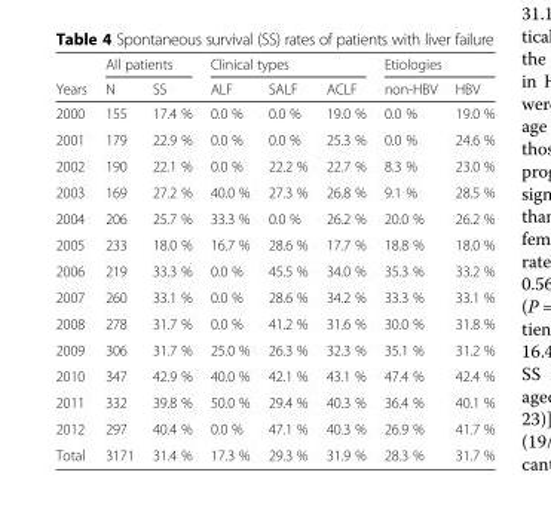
<table><thead><tr><td rowspan="2">Years</td><td colspan="2">All patients</td><td colspan="3">Clinical types</td><td colspan="2">Etiologies</td></tr><tr><td>N</td><td>SS</td><td>ALF</td><td>SALF</td><td>ACLF</td><td>non-HBV</td><td>HBV</td></tr></thead><tbody><tr><td>2000</td><td>155</td><td>17.4 %</td><td>0.0 %</td><td>0.0 %</td><td>19.0 %</td><td>0.0 %</td><td>19.0 %</td></tr><tr><td>2001</td><td>179</td><td>22.9 %</td><td>0.0 %</td><td>0.0 %</td><td>25.3 %</td><td>0.0 %</td><td>24.6 %</td></tr><tr><td>2002</td><td>190</td><td>22.1 %</td><td>0.0 %</td><td>22.2 %</td><td>22.7 %</td><td>8.3 %</td><td>23.0 %</td></tr><tr><td>2003</td><td>169</td><td>27.2 %</td><td>40.0 %</td><td>27.3 %</td><td>26.8 %</td><td>9.1 %</td><td>28.5 %</td></tr><tr><td>2004</td><td>206</td><td>25.7 %</td><td>33.3 %</td><td>0.0 %</td><td>26.2 %</td><td>20.0 %</td><td>26.2 %</td></tr><tr><td>2005</td><td>233</td><td>18.0 %</td><td>16.7 %</td><td>28.6 %</td><td>17.7 %</td><td>18.8 %</td><td>18.0 %</td></tr><tr><td>2006</td><td>219</td><td>33.3 %</td><td>0.0 %</td><td>45.5 %</td><td>34.0 %</td><td>35.3 %</td><td>33.2 %</td></tr><tr><td>2007</td><td>260</td><td>33.1 %</td><td>0.0 %</td><td>28.6 %</td><td>34.2 %</td><td>33.3 %</td><td>33.1 %</td></tr><tr><td>2008</td><td>278</td><td>31.7 %</td><td>0.0 %</td><td>41.2 %</td><td>31.6 %</td><td>30.0 %</td><td>31.8 %</td></tr><tr><td>2009</td><td>306</td><td>31.7 %</td><td>25.0 %</td><td>26.3 %</td><td>32.3 %</td><td>35.1 %</td><td>31.2 %</td></tr><tr><td>2010</td><td>347</td><td>42.9 %</td><td>40.0 %</td><td>42.1 %</td><td>43.1 %</td><td>47.4 %</td><td>42.4 %</td></tr><tr><td>2011</td><td>332</td><td>39.8 %</td><td>50.0 %</td><td>29.4 %</td><td>40.3 %</td><td>36.4 %</td><td>40.1 %</td></tr><tr><td>2012</td><td>297</td><td>40.4 %</td><td>0.0 %</td><td>47.1 %</td><td>40.3 %</td><td>26.9 %</td><td>41.7 %</td></tr><tr><td>Total</td><td>3171</td><td>31.4 %</td><td>17.3 %</td><td>29.3 %</td><td>31.9 %</td><td>28.3 %</td><td>31.7 %</td></tr></tbody></table>